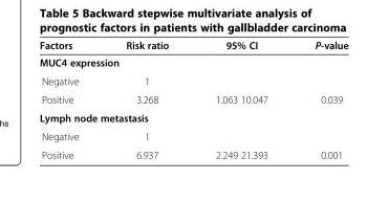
<table><thead><tr><td>Factors</td><td>Risk ratio</td><td>95% CI</td><td>P-value</td></tr></thead><tbody><tr><td colspan="4">MUC4 expression</td></tr><tr><td>Negative</td><td>1</td><td></td><td></td></tr><tr><td>Positive</td><td>3.268</td><td>1.063 10.047</td><td>0.039</td></tr><tr><td colspan="4">Lymph node metastasis</td></tr><tr><td>Negative</td><td>1</td><td></td><td></td></tr><tr><td>Positive</td><td>6.937</td><td>2.249 21.393</td><td>0.001</td></tr></tbody></table>